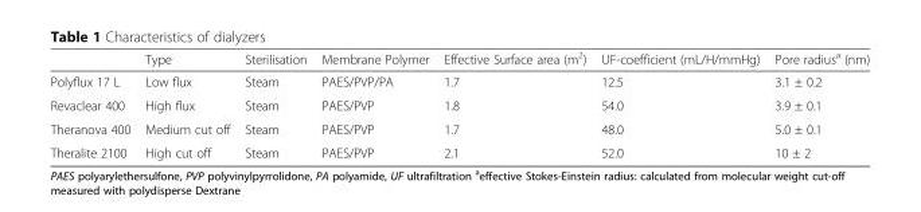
<table><thead><tr><td></td><td>Type</td><td>Sterilisation</td><td>Membrane Polymer</td><td>Effective Surface area (m<sup>2</sup>)</td><td>UF-coefficient (mL/H/mmHg)</td><td>Pore radius<sup>a</sup> (nm)</td></tr></thead><tbody><tr><td>Polyflux 17 L</td><td>Low flux</td><td>Steam</td><td>PAES/PVP/PA</td><td>1.7</td><td>12.5</td><td>3.1 ± 0.2</td></tr><tr><td>Revaclear 400</td><td>High flux</td><td>Steam</td><td>PAES/PVP</td><td>1.8</td><td>54.0</td><td>3.9 ± 0.1</td></tr><tr><td>Theranova 400</td><td>Medium cut off</td><td>Steam</td><td>PAES/PVP</td><td>1.7</td><td>48.0</td><td>5.0 ± 0.1</td></tr><tr><td>Theralite 2100</td><td>High cut off</td><td>Steam</td><td>PAES/PVP</td><td>2.1</td><td>52.0</td><td>10 ± 2</td></tr></tbody></table>